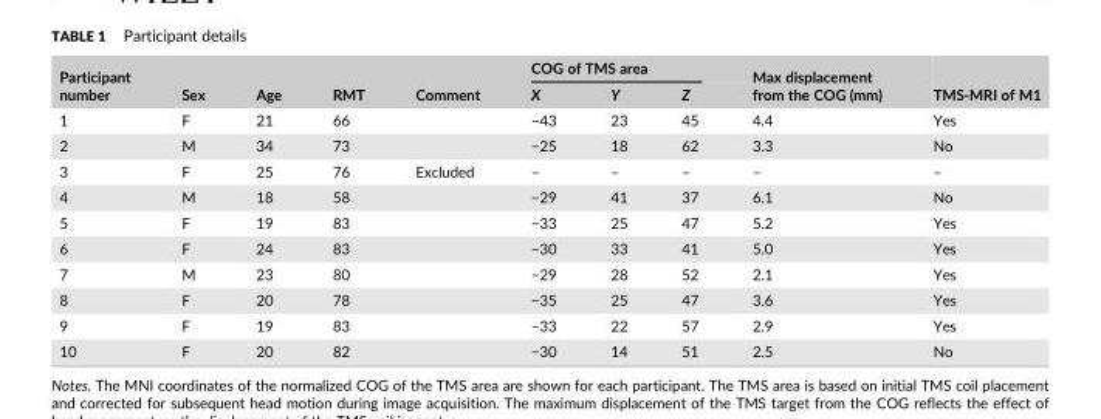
<table><thead><tr><td rowspan="2">Participant number</td><td rowspan="2">Sex</td><td rowspan="2">Age</td><td rowspan="2">RMT</td><td rowspan="2">Comment</td><td colspan="3">COG of TMS area</td><td rowspan="2">Max displacement from the COG (mm)</td><td rowspan="2">TMS-MRI of M1</td></tr><tr><td>X</td><td>Y</td><td>Z</td></tr></thead><tbody><tr><td>1</td><td>F</td><td>21</td><td>66</td><td></td><td>−43</td><td>23</td><td>45</td><td>4.4</td><td>Yes</td></tr><tr><td>2</td><td>M</td><td>34</td><td>73</td><td></td><td>−25</td><td>18</td><td>62</td><td>3.3</td><td>No</td></tr><tr><td>3</td><td>F</td><td>25</td><td>76</td><td>Excluded</td><td>–</td><td>–</td><td>–</td><td>–</td><td>–</td></tr><tr><td>4</td><td>M</td><td>18</td><td>58</td><td></td><td>−29</td><td>41</td><td>37</td><td>6.1</td><td>No</td></tr><tr><td>5</td><td>F</td><td>19</td><td>83</td><td></td><td>−33</td><td>25</td><td>47</td><td>5.2</td><td>Yes</td></tr><tr><td>6</td><td>F</td><td>24</td><td>83</td><td></td><td>−30</td><td>33</td><td>41</td><td>5.0</td><td>Yes</td></tr><tr><td>7</td><td>M</td><td>23</td><td>80</td><td></td><td>−29</td><td>28</td><td>52</td><td>2.1</td><td>Yes</td></tr><tr><td>8</td><td>F</td><td>20</td><td>78</td><td></td><td>−35</td><td>25</td><td>47</td><td>3.6</td><td>Yes</td></tr><tr><td>9</td><td>F</td><td>19</td><td>83</td><td></td><td>−33</td><td>22</td><td>57</td><td>2.9</td><td>Yes</td></tr><tr><td>10</td><td>F</td><td>20</td><td>82</td><td></td><td>−30</td><td>14</td><td>51</td><td>2.5</td><td>No</td></tr></tbody></table>